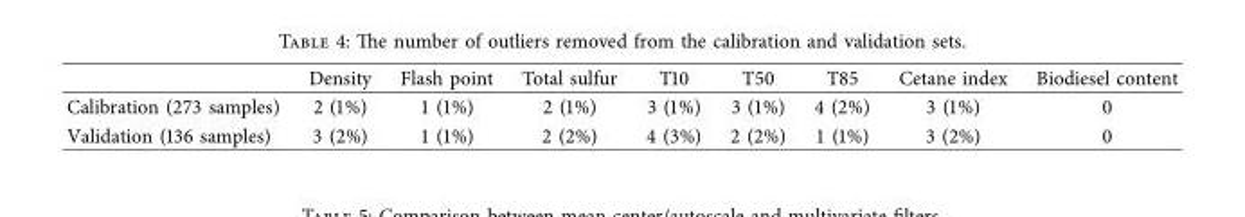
<table><thead><tr><td></td><td>Density</td><td>Flash point</td><td>Total sulfur</td><td>T10</td><td>T50</td><td>T85</td><td>Cetane index</td><td>Biodiesel content</td></tr></thead><tbody><tr><td>Calibration (273 samples)</td><td>2 (1%)</td><td>1 (1%)</td><td>2 (1%)</td><td>3 (1%)</td><td>3 (1%)</td><td>4 (2%)</td><td>3 (1%)</td><td>0</td></tr><tr><td>Validation (136 samples)</td><td>3 (2%)</td><td>1 (1%)</td><td>2 (2%)</td><td>4 (3%)</td><td>2 (2%)</td><td>1 (1%)</td><td>3 (2%)</td><td>0</td></tr></tbody></table>